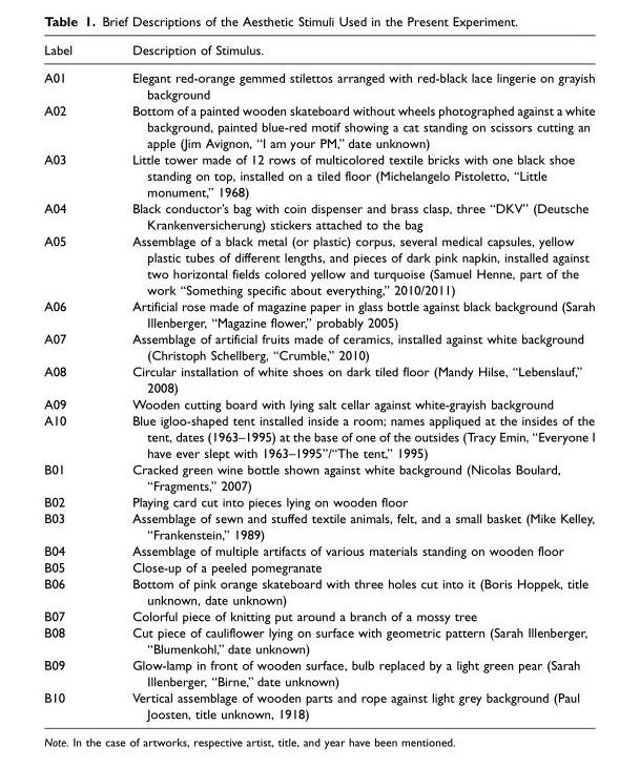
<table><thead><tr><td>Label</td><td>Description of Stimulus.</td></tr></thead><tbody><tr><td>A01</td><td>Elegant red-orange gemmed stilettos arranged with red-black lace lingerie on grayish background</td></tr><tr><td>A02</td><td>Bottom of a painted wooden skateboard without wheels photographed against a white background, painted blue-red motif showing a cat standing on scissors cutting an apple (Jim Avignon, ‘‘I am your PM,’’ date unknown)</td></tr><tr><td>A03</td><td>Little tower made of 12 rows of multicolored textile bricks with one black shoe standing on top, installed on a tiled floor (Michelangelo Pistoletto, ‘‘Little monument,’’ 1968)</td></tr><tr><td>A04</td><td>Black conductor’s bag with coin dispenser and brass clasp, three ‘‘DKV’’ (Deutsche Krankenversicherung) stickers attached to the bag</td></tr><tr><td>A05</td><td>Assemblage of a black metal (or plastic) corpus, several medical capsules, yellow plastic tubes of different lengths, and pieces of dark pink napkin, installed against two horizontal fields colored yellow and turquoise (Samuel Henne, part of the work ‘‘Something specific about everything,’’ 2010/2011)</td></tr><tr><td>A06</td><td>Artificial rose made of magazine paper in glass bottle against black background (Sarah Illenberger, ‘‘Magazine flower,’’ probably 2005)</td></tr><tr><td>A07</td><td>Assemblage of artificial fruits made of ceramics, installed against white background (Christoph Schellberg, ‘‘Crumble,’’ 2010)</td></tr><tr><td>A08</td><td>Circular installation of white shoes on dark tiled floor (Mandy Hilse, ‘‘Lebenslauf,’’ 2008)</td></tr><tr><td>A09</td><td>Wooden cutting board with lying salt cellar against white-grayish background</td></tr><tr><td>A10</td><td>Blue igloo-shaped tent installed inside a room; names appliqued at the insides of the tent, dates (1963–1995) at the base of one of the outsides (Tracy Emin, ‘‘Everyone I have ever slept with 1963–1995’’/‘‘The tent,’’ 1995)</td></tr><tr><td>B01</td><td>Cracked green wine bottle shown against white background (Nicolas Boulard, ‘‘Fragments,’’ 2007)</td></tr><tr><td>B02</td><td>Playing card cut into pieces lying on wooden floor</td></tr><tr><td>B03</td><td>Assemblage of sewn and stuffed textile animals, felt, and a small basket (Mike Kelley, ‘‘Frankenstein,’’ 1989)</td></tr><tr><td>B04</td><td>Assemblage of multiple artifacts of various materials standing on wooden floor</td></tr><tr><td>B05</td><td>Close-up of a peeled pomegranate</td></tr><tr><td>B06</td><td>Bottom of pink orange skateboard with three holes cut into it (Boris Hoppek, title unknown, date unknown)</td></tr><tr><td>B07</td><td>Colorful piece of knitting put around a branch of a mossy tree</td></tr><tr><td>B08</td><td>Cut piece of cauliflower lying on surface with geometric pattern (Sarah Illenberger, ‘‘Blumenkohl,’’ date unknown)</td></tr><tr><td>B09</td><td>Glow-lamp in front of wooden surface, bulb replaced by a light green pear (Sarah Illenberger, ‘‘Birne,’’ date unknown)</td></tr><tr><td>B10</td><td>Vertical assemblage of wooden parts and rope against light grey background (Paul Joosten, title unknown, 1918)</td></tr></tbody></table>